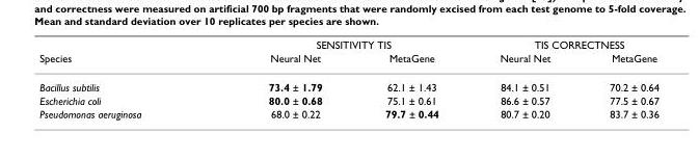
<table><thead><tr><td rowspan="2">Species</td><td colspan="2">SENSITIVITY TIS</td><td colspan="2">TIS CORRECTNESS</td></tr><tr><td>Neural Net</td><td>MetaGene</td><td>Neural Net</td><td>MetaGene</td></tr></thead><tbody><tr><td>Bacillus subtilis</td><td>73.4 ± 1.79</td><td>62.1 ± 1.43</td><td>84.1 ± 0.51</td><td>70.2 ± 0.64</td></tr><tr><td>Escherichia coli</td><td>80.0 ± 0.68</td><td>75.1 ± 0.61</td><td>86.6 ± 0.57</td><td>77.5 ± 0.67</td></tr><tr><td>Pseudomonas aeruginosa</td><td>68.0 ± 0.22</td><td>79.7 ± 0.44</td><td>80.7 ± 0.20</td><td>83.7 ± 0.36</td></tr></tbody></table>